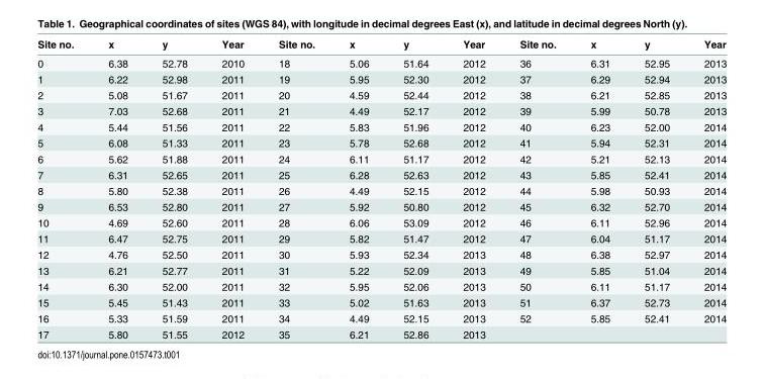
<table><thead><tr><td>Site no.</td><td>x</td><td>y</td><td>Year</td><td>Site no.</td><td>x</td><td>y</td><td>Year</td><td>Site no.</td><td>x</td><td>y</td><td>Year</td></tr></thead><tbody><tr><td>0</td><td>6.38</td><td>52.78</td><td>2010</td><td>18</td><td>5.06</td><td>51.64</td><td>2012</td><td>36</td><td>6.31</td><td>52.95</td><td>2013</td></tr><tr><td>1</td><td>6.22</td><td>52.98</td><td>2011</td><td>19</td><td>5.95</td><td>52.30</td><td>2012</td><td>37</td><td>6.29</td><td>52.94</td><td>2013</td></tr><tr><td>2</td><td>5.08</td><td>51.67</td><td>2011</td><td>20</td><td>4.59</td><td>52.44</td><td>2012</td><td>38</td><td>6.21</td><td>52.85</td><td>2013</td></tr><tr><td>3</td><td>7.03</td><td>52.68</td><td>2011</td><td>21</td><td>4.49</td><td>52.17</td><td>2012</td><td>39</td><td>5.99</td><td>50.78</td><td>2013</td></tr><tr><td>4</td><td>5.44</td><td>51.56</td><td>2011</td><td>22</td><td>5.83</td><td>51.96</td><td>2012</td><td>40</td><td>6.23</td><td>52.00</td><td>2014</td></tr><tr><td>5</td><td>6.08</td><td>51.33</td><td>2011</td><td>23</td><td>5.78</td><td>52.68</td><td>2012</td><td>41</td><td>5.94</td><td>52.31</td><td>2014</td></tr><tr><td>6</td><td>5.62</td><td>51.88</td><td>2011</td><td>24</td><td>6.11</td><td>51.17</td><td>2012</td><td>42</td><td>5.21</td><td>52.13</td><td>2014</td></tr><tr><td>7</td><td>6.31</td><td>52.65</td><td>2011</td><td>25</td><td>6.28</td><td>52.63</td><td>2012</td><td>43</td><td>5.85</td><td>52.41</td><td>2014</td></tr><tr><td>8</td><td>5.80</td><td>52.38</td><td>2011</td><td>26</td><td>4.49</td><td>52.15</td><td>2012</td><td>44</td><td>5.98</td><td>50.93</td><td>2014</td></tr><tr><td>9</td><td>6.53</td><td>52.80</td><td>2011</td><td>27</td><td>5.92</td><td>50.80</td><td>2012</td><td>45</td><td>6.32</td><td>52.70</td><td>2014</td></tr><tr><td>10</td><td>4.69</td><td>52.60</td><td>2011</td><td>28</td><td>6.06</td><td>53.09</td><td>2012</td><td>46</td><td>6.11</td><td>52.96</td><td>2014</td></tr><tr><td>11</td><td>6.47</td><td>52.75</td><td>2011</td><td>29</td><td>5.82</td><td>51.47</td><td>2012</td><td>47</td><td>6.04</td><td>51.17</td><td>2014</td></tr><tr><td>12</td><td>4.76</td><td>52.50</td><td>2011</td><td>30</td><td>5.93</td><td>52.34</td><td>2013</td><td>48</td><td>6.38</td><td>52.97</td><td>2014</td></tr><tr><td>13</td><td>6.21</td><td>52.77</td><td>2011</td><td>31</td><td>5.22</td><td>52.09</td><td>2013</td><td>49</td><td>5.85</td><td>51.04</td><td>2014</td></tr><tr><td>14</td><td>6.30</td><td>52.00</td><td>2011</td><td>32</td><td>5.95</td><td>52.06</td><td>2013</td><td>50</td><td>6.11</td><td>51.17</td><td>2014</td></tr><tr><td>15</td><td>5.45</td><td>51.43</td><td>2011</td><td>33</td><td>5.02</td><td>51.63</td><td>2013</td><td>51</td><td>6.37</td><td>52.73</td><td>2014</td></tr><tr><td>16</td><td>5.33</td><td>51.59</td><td>2011</td><td>34</td><td>4.49</td><td>52.15</td><td>2013</td><td>52</td><td>5.85</td><td>52.41</td><td>2014</td></tr><tr><td>17</td><td>5.80</td><td>51.55</td><td>2012</td><td>35</td><td>6.21</td><td>52.86</td><td>2013</td><td></td><td></td><td></td><td></td></tr></tbody></table>